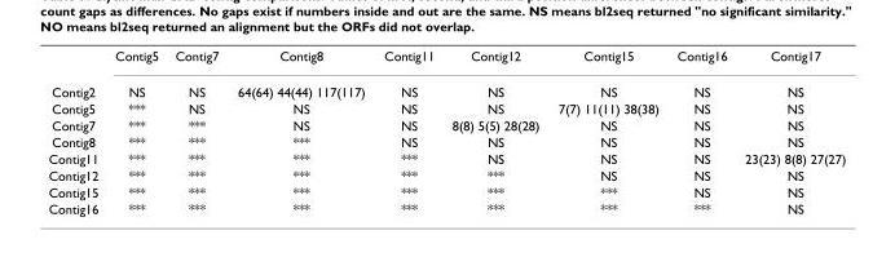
<table><thead><tr><td></td><td>Contig5</td><td>Contig7</td><td>Contig8</td><td>Contig11</td><td>Contig12</td><td>Contig15</td><td>Contig16</td><td>Contig17</td></tr></thead><tbody><tr><td>Contig2</td><td>NS</td><td>NS</td><td>64(64) 44(44) 117(117)</td><td>NS</td><td>NS</td><td>NS</td><td>NS</td><td>NS</td></tr><tr><td>Contig5</td><td>***</td><td>NS</td><td>NS</td><td>NS</td><td>NS</td><td>7(7) 11(11) 38(38)</td><td>NS</td><td>NS</td></tr><tr><td>Contig7</td><td>***</td><td>***</td><td>NS</td><td>NS</td><td>8(8) 5(5) 28(28)</td><td>NS</td><td>NS</td><td>NS</td></tr><tr><td>Contig8</td><td>***</td><td>***</td><td>***</td><td>NS</td><td>NS</td><td>NS</td><td>NS</td><td>NS</td></tr><tr><td>Contig11</td><td>***</td><td>***</td><td>***</td><td>***</td><td>NS</td><td>NS</td><td>NS</td><td>23(23) 8(8) 27(27)</td></tr><tr><td>Contig12</td><td>***</td><td>***</td><td>***</td><td>***</td><td>***</td><td>NS</td><td>NS</td><td>NS</td></tr><tr><td>Contig15</td><td>***</td><td>***</td><td>***</td><td>***</td><td>***</td><td>***</td><td>NS</td><td>NS</td></tr><tr><td>Contig16</td><td>***</td><td>***</td><td>***</td><td>***</td><td>***</td><td>***</td><td>***</td><td>NS</td></tr></tbody></table>